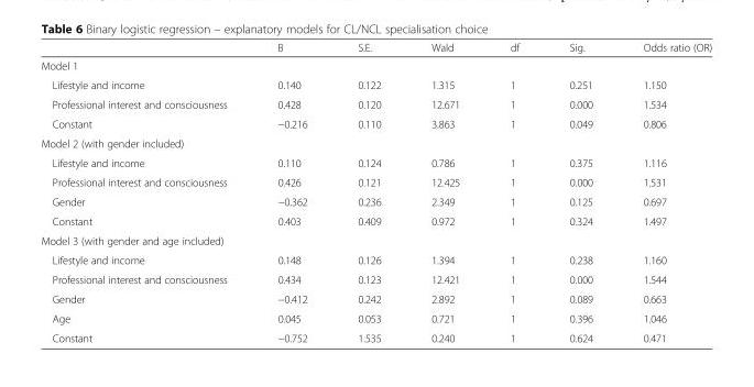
<table><thead><tr><td></td><td>B</td><td>S.E.</td><td>Wald</td><td>df</td><td>Sig.</td><td>Odds ratio (OR)</td></tr></thead><tbody><tr><td colspan="7">Model 1</td></tr><tr><td>Lifestyle and income</td><td>0.140</td><td>0.122</td><td>1.315</td><td>1</td><td>0.251</td><td>1.150</td></tr><tr><td>Professional interest and consciousness</td><td>0.428</td><td>0.120</td><td>12.671</td><td>1</td><td>0.000</td><td>1.534</td></tr><tr><td>Constant</td><td>−0.216</td><td>0.110</td><td>3.863</td><td>1</td><td>0.049</td><td>0.806</td></tr><tr><td colspan="7">Model 2 (with gender included)</td></tr><tr><td>Lifestyle and income</td><td>0.110</td><td>0.124</td><td>0.786</td><td>1</td><td>0.375</td><td>1.116</td></tr><tr><td>Professional interest and consciousness</td><td>0.426</td><td>0.121</td><td>12.425</td><td>1</td><td>0.000</td><td>1.531</td></tr><tr><td>Gender</td><td>−0.362</td><td>0.236</td><td>2.349</td><td>1</td><td>0.125</td><td>0.697</td></tr><tr><td>Constant</td><td>0.403</td><td>0.409</td><td>0.972</td><td>1</td><td>0.324</td><td>1.497</td></tr><tr><td colspan="7">Model 3 (with gender and age included)</td></tr><tr><td>Lifestyle and income</td><td>0.148</td><td>0.126</td><td>1.394</td><td>1</td><td>0.238</td><td>1.160</td></tr><tr><td>Professional interest and consciousness</td><td>0.434</td><td>0.123</td><td>12.421</td><td>1</td><td>0.000</td><td>1.544</td></tr><tr><td>Gender</td><td>−0.412</td><td>0.242</td><td>2.892</td><td>1</td><td>0.089</td><td>0.663</td></tr><tr><td>Age</td><td>0.045</td><td>0.053</td><td>0.721</td><td>1</td><td>0.396</td><td>1.046</td></tr><tr><td>Constant</td><td>−0.752</td><td>1.535</td><td>0.240</td><td>1</td><td>0.624</td><td>0.471</td></tr></tbody></table>